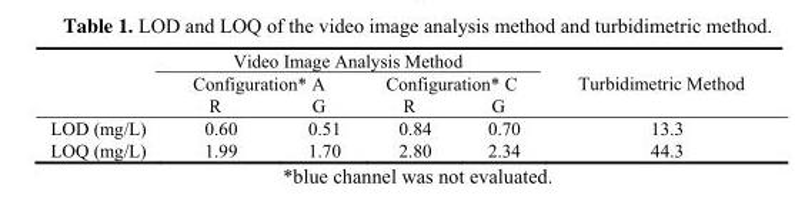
<table><thead><tr><td rowspan="3"></td><td colspan="4">Video Image Analysis Method</td><td rowspan="3">Turbidimetric Method</td></tr><tr><td colspan="2">Configuration* A</td><td colspan="2">Configuration* C</td></tr><tr><td>R</td><td>G</td><td>R</td><td>G</td></tr></thead><tbody><tr><td>LOD (mg/L)</td><td>0.60</td><td>0.51</td><td>0.84</td><td>0.70</td><td>13.3</td></tr><tr><td>LOQ (mg/L)</td><td>1.99</td><td>1.70</td><td>2.80</td><td>2.34</td><td>44.3</td></tr></tbody></table>